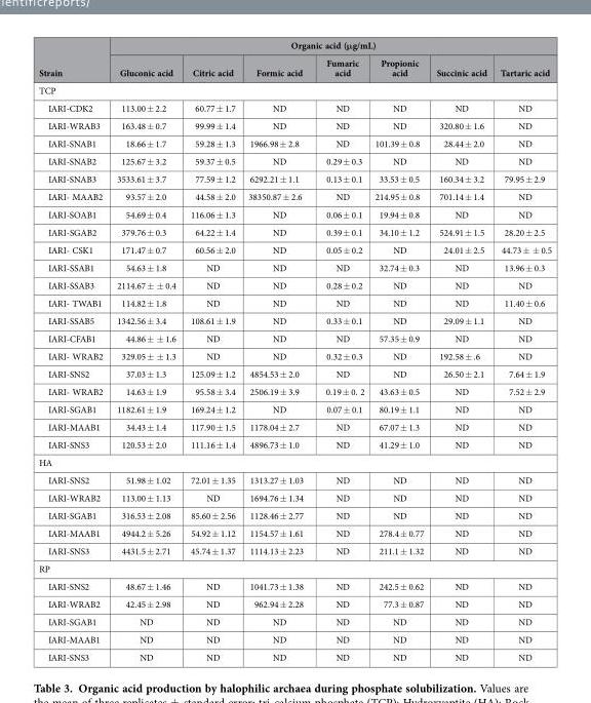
<table><thead><tr><td rowspan="2">Strain</td><td colspan="7">Organic acid (μg/mL)</td></tr><tr><td>Gluconic acid</td><td>Citric acid</td><td>Formic acid</td><td>Fumaric acid</td><td>Propionic acid</td><td>Succinic acid</td><td>Tartaric acid</td></tr></thead><tbody><tr><td colspan="8">TCP</td></tr><tr><td>IARI-CDK2</td><td>113.00 ± 2.2</td><td>60.77 ± 1.7</td><td>ND</td><td>ND</td><td>ND</td><td>ND</td><td>ND</td></tr><tr><td>IARI-WRAB3</td><td>163.48 ± 0.7</td><td>99.99 ± 1.4</td><td>ND</td><td>ND</td><td>ND</td><td>320.80 ± 1.6</td><td>ND</td></tr><tr><td>IARI-SNAB1</td><td>18.66 ± 1.7</td><td>59.28 ± 1.3</td><td>1966.98 ± 2.8</td><td>ND</td><td>101.39 ± 0.8</td><td>28.44 ± 2.0</td><td>ND</td></tr><tr><td>IARI-SNAB2</td><td>125.67 ± 3.2</td><td>59.37 ± 0.5</td><td>ND</td><td>0.29 ± 0.3</td><td>ND</td><td>ND</td><td>ND</td></tr><tr><td>IARI-SNAB3</td><td>3533.61 ± 3.7</td><td>77.59 ± 1.2</td><td>6292.21 ± 1.1</td><td>0.13 ± 0.1</td><td>33.53 ± 0.5</td><td>160.34 ± 3.2</td><td>79.95 ± 2.9</td></tr><tr><td>IARI- MAAB2</td><td>93.57 ± 2.0</td><td>44.58 ± 2.0</td><td>38350.87 ± 2.6</td><td>ND</td><td>214.95 ± 0.8</td><td>701.14 ± 1.4</td><td>ND</td></tr><tr><td>IARI-SOAB1</td><td>54.69 ± 0.4</td><td>116.06 ± 1.3</td><td>ND</td><td>0.06 ± 0.1</td><td>19.94 ± 0.8</td><td>ND</td><td>ND</td></tr><tr><td>IARI-SGAB2</td><td>379.76 ± 0.3</td><td>64.22 ± 1.4</td><td>ND</td><td>0.39 ± 0.1</td><td>34.10 ± 1.2</td><td>524.91 ± 1.5</td><td>28.20 ± 2.5</td></tr><tr><td>IARI- CSK1</td><td>171.47 ± 0.7</td><td>60.56 ± 2.0</td><td>ND</td><td>0.05 ± 0.2</td><td>ND</td><td>24.01 ± 2.5</td><td>44.73 ± ± 0.5</td></tr><tr><td>IARI-SSAB1</td><td>54.63 ± 1.8</td><td>ND</td><td>ND</td><td>ND</td><td>32.74 ± 0.3</td><td>ND</td><td>13.96 ± 0.3</td></tr><tr><td>IARI-SSAB3</td><td>2114.67 ± ± 0.4</td><td>ND</td><td>ND</td><td>0.28 ± 0.2</td><td>ND</td><td>ND</td><td>ND</td></tr><tr><td>IARI- TWAB1</td><td>114.82 ± 1.8</td><td>ND</td><td>ND</td><td>ND</td><td>ND</td><td>ND</td><td>11.40 ± 0.6</td></tr><tr><td>IARI-SSAB5</td><td>1342.56 ± 3.4</td><td>108.61 ± 1.9</td><td>ND</td><td>0.33 ± 0.1</td><td>ND</td><td>29.09 ± 1.1</td><td>ND</td></tr><tr><td>IARI-CFAB1</td><td>44.86 ± ± 1.6</td><td>ND</td><td>ND</td><td>ND</td><td>57.35 ± 0.9</td><td>ND</td><td>ND</td></tr><tr><td>IARI- WRAB2</td><td>329.05 ± ± 1.3</td><td>ND</td><td>ND</td><td>0.32 ± 0.3</td><td>ND</td><td>192.58 ± .6</td><td>ND</td></tr><tr><td>IARI-SNS2</td><td>37.03 ± 1.3</td><td>125.09 ± 1.2</td><td>4854.53 ± 2.0</td><td>ND</td><td>ND</td><td>26.50 ± 2.1</td><td>7.64 ± 1.9</td></tr><tr><td>IARI- WRAB2</td><td>14.63 ± 1.9</td><td>95.58 ± 3.4</td><td>2506.19 ± 3.9</td><td>0.19 ± 0. 2</td><td>43.63 ± 0.5</td><td>ND</td><td>7.52 ± 2.9</td></tr><tr><td>IARI-SGAB1</td><td>1182.61 ± 1.9</td><td>169.24 ± 1.2</td><td>ND</td><td>0.07 ± 0.1</td><td>80.19 ± 1.1</td><td>ND</td><td>ND</td></tr><tr><td>IARI-MAAB1</td><td>34.43 ± 1.4</td><td>117.90 ± 1.5</td><td>1178.04 ± 2.7</td><td>ND</td><td>67.07 ± 1.3</td><td>ND</td><td>ND</td></tr><tr><td>IARI-SNS3</td><td>120.53 ± 2.0</td><td>111.16 ± 1.4</td><td>4896.73 ± 1.0</td><td>ND</td><td>41.29 ± 1.0</td><td>ND</td><td>ND</td></tr><tr><td colspan="8">HA</td></tr><tr><td>IARI-SNS2</td><td>51.98 ± 1.02</td><td>72.01 ± 1.35</td><td>1313.27 ± 1.03</td><td>ND</td><td>ND</td><td>ND</td><td>ND</td></tr><tr><td>IARI-WRAB2</td><td>113.00 ± 1.13</td><td>ND</td><td>1694.76 ± 1.34</td><td>ND</td><td>ND</td><td>ND</td><td>ND</td></tr><tr><td>IARI-SGAB1</td><td>316.53 ± 2.08</td><td>85.60 ± 2.56</td><td>1128.46 ± 2.77</td><td>ND</td><td>ND</td><td>ND</td><td>ND</td></tr><tr><td>IARI-MAAB1</td><td>4944.2 ± 5.26</td><td>54.92 ± 1.12</td><td>1154.57 ± 1.61</td><td>ND</td><td>278.4 ± 0.77</td><td>ND</td><td>ND</td></tr><tr><td>IARI-SNS3</td><td>4431.5 ± 2.71</td><td>45.74 ± 1.37</td><td>1114.13 ± 2.23</td><td>ND</td><td>211.1 ± 1.32</td><td>ND</td><td>ND</td></tr><tr><td colspan="8">RP</td></tr><tr><td>IARI-SNS2</td><td>48.67 ± 1.46</td><td>ND</td><td>1041.73 ± 1.38</td><td>ND</td><td>242.5 ± 0.62</td><td>ND</td><td>ND</td></tr><tr><td>IARI-WRAB2</td><td>42.45 ± 2.98</td><td>ND</td><td>962.94 ± 2.28</td><td>ND</td><td>77.3 ± 0.87</td><td>ND</td><td>ND</td></tr><tr><td>IARI-SGAB1</td><td>ND</td><td>ND</td><td>ND</td><td>ND</td><td>ND</td><td>ND</td><td>ND</td></tr><tr><td>IARI-MAAB1</td><td>ND</td><td>ND</td><td>ND</td><td>ND</td><td>ND</td><td>ND</td><td>ND</td></tr><tr><td>IARI-SNS3</td><td>ND</td><td>ND</td><td>ND</td><td>ND</td><td>ND</td><td>ND</td><td>ND</td></tr></tbody></table>